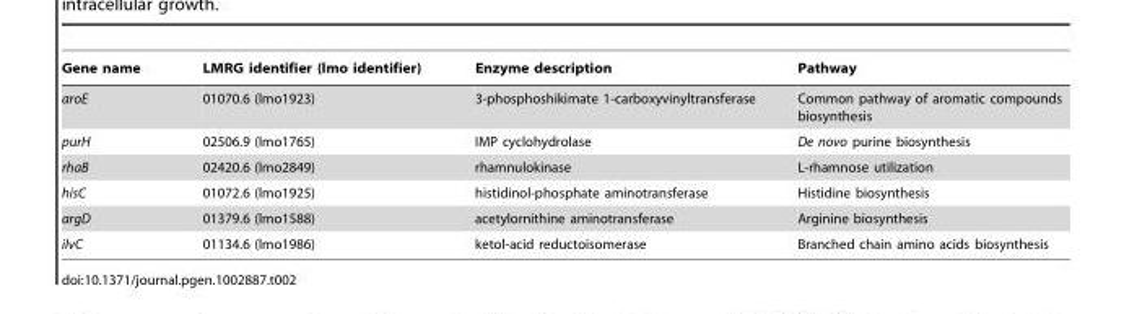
<table><thead><tr><td>Gene name</td><td>LMRG identifier (lmo identifier)</td><td>Enzyme description</td><td>Pathway</td></tr></thead><tbody><tr><td>aroE</td><td>01070.6 (lmo1923)</td><td>3-phosphoshikimate 1-carboxyvinyltransferase</td><td>Common pathway of aromatic compounds biosynthesis</td></tr><tr><td>purH</td><td>02506.9 (lmo1765)</td><td>IMP cyclohydrolase</td><td>De novo purine biosynthesis</td></tr><tr><td>rhaB</td><td>02420.6 (lmo2849)</td><td>rhamnulokinase</td><td>L-rhamnose utilization</td></tr><tr><td>hisC</td><td>01072.6 (lmo1925)</td><td>histidinol-phosphate aminotransferase</td><td>Histidine biosynthesis</td></tr><tr><td>argD</td><td>01379.6 (lmo1588)</td><td>acetylornithine aminotransferase</td><td>Arginine biosynthesis</td></tr><tr><td>ilvC</td><td>01134.6 (lmo1986)</td><td>ketol-acid reductoisomerase</td><td>Branched chain amino acids biosynthesis</td></tr></tbody></table>